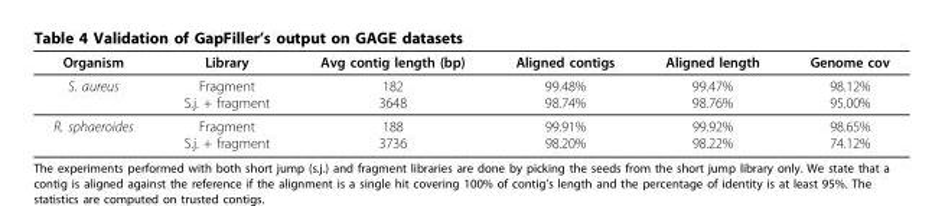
<table><thead><tr><td>Organism</td><td>Library</td><td>Avg contig length (bp)</td><td>Aligned contigs</td><td>Aligned length</td><td>Genome cov</td></tr></thead><tbody><tr><td>S. aureus</td><td>Fragment S.j. + fragment</td><td>182 3648</td><td>99.48% 98.74%</td><td>99.47% 98.76%</td><td>98.12% 95.00%</td></tr><tr><td>R. sphaeroides</td><td>Fragment S.j. + fragment</td><td>188 3736</td><td>99.91% 98.20%</td><td>99.92% 98.22%</td><td>98.65% 74.12%</td></tr></tbody></table>